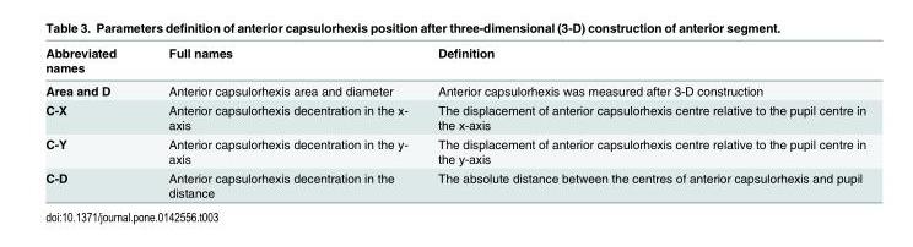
<table><thead><tr><td>Abbreviated names</td><td>Full names</td><td>Definition</td></tr></thead><tbody><tr><td>Area and D</td><td>Anterior capsulorhexis area and diameter</td><td>Anterior capsulorhexis was measured after 3-D construction</td></tr><tr><td>C-X</td><td>Anterior capsulorhexis decentration in the x- axis</td><td>The displacement of anterior capsulorhexis centre relative to the pupil centre in the x-axis</td></tr><tr><td>C-Y</td><td>Anterior capsulorhexis decentration in the y- axis</td><td>The displacement of anterior capsulorhexis centre relative to the pupil centre in the y-axis</td></tr><tr><td>C-D</td><td>Anterior capsulorhexis decentration in the distance</td><td>The absolute distance between the centres of anterior capsulorhexis and pupil</td></tr></tbody></table>